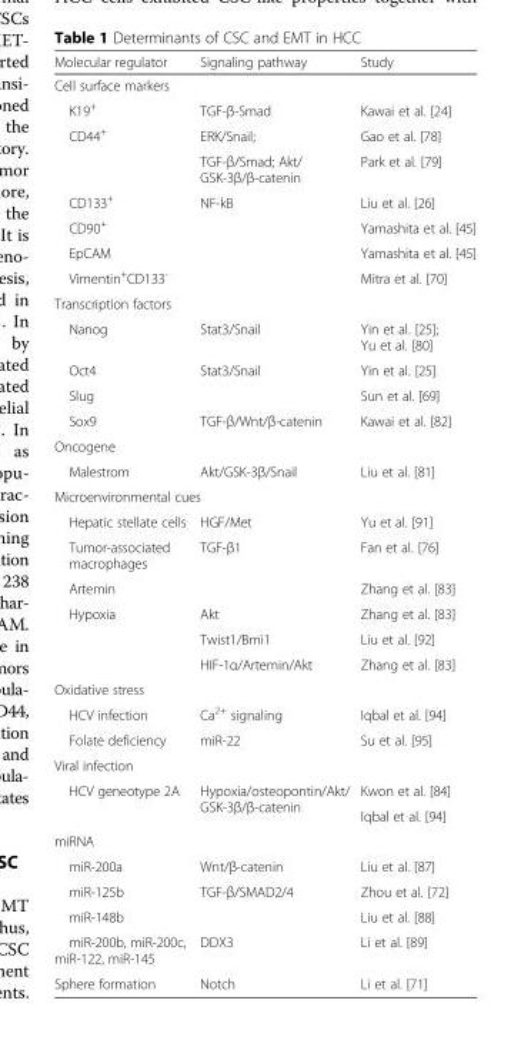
<table><thead><tr><td>Molecular regulator</td><td>Signaling pathway</td><td>Study</td></tr></thead><tbody><tr><td colspan="3">Cell surface markers</td></tr><tr><td>K19<sup>+</sup></td><td>TGF-β-Smad</td><td>Kawai et al. [24]</td></tr><tr><td rowspan="2">CD44<sup>+</sup></td><td>ERK/Snail;</td><td>Gao et al. [78]</td></tr><tr><td>TGF-β/Smad; Akt/ GSK-3β/β-catenin</td><td>Park et al. [79]</td></tr><tr><td>CD133<sup>+</sup></td><td>NF-kB</td><td>Liu et al. [26]</td></tr><tr><td>CD90<sup>+</sup></td><td></td><td>Yamashita et al. [45]</td></tr><tr><td>EpCAM</td><td></td><td>Yamashita et al. [45]</td></tr><tr><td>Vimentin<sup>+</sup>CD133<sup>-</sup></td><td></td><td>Mitra et al. [70]</td></tr><tr><td colspan="3">Transcription factors</td></tr><tr><td>Nanog</td><td>Stat3/Snail</td><td>Yin et al. [25]; Yu et al. [80]</td></tr><tr><td>Oct4</td><td>Stat3/Snail</td><td>Yin et al. [25]</td></tr><tr><td>Slug</td><td></td><td>Sun et al. [69]</td></tr><tr><td>Sox9</td><td>TGF-β/Wnt/β-catenin</td><td>Kawai et al. [82]</td></tr><tr><td colspan="3">Oncogene</td></tr><tr><td>Malestrom</td><td>Akt/GSK-3β/Snail</td><td>Liu et al. [81]</td></tr><tr><td colspan="3">Microenvironmental cues</td></tr><tr><td>Hepatic stellate cells</td><td>HGF/Met</td><td>Yu et al. [91]</td></tr><tr><td>Tumor-associated macrophages</td><td>TGF-β1</td><td>Fan et al. [76]</td></tr><tr><td>Artemin</td><td></td><td>Zhang et al. [83]</td></tr><tr><td rowspan="3">Hypoxia</td><td>Akt</td><td>Zhang et al. [83]</td></tr><tr><td>Twist1/Bmi1</td><td>Liu et al. [92]</td></tr><tr><td>HIF-1α/Artemin/Akt</td><td>Zhang et al. [83]</td></tr><tr><td colspan="3">Oxidative stress</td></tr><tr><td>HCV infection</td><td>Ca<sup>2+</sup> signaling</td><td>Iqbal et al. [94]</td></tr><tr><td>Folate deficiency</td><td>miR-22</td><td>Su et al. [95]</td></tr><tr><td colspan="3">Viral infection</td></tr><tr><td rowspan="2">HCV geneotype 2A</td><td rowspan="2">Hypoxia/osteopontin/Akt/ GSK-3β/β-catenin</td><td>Kwon et al. [84]</td></tr><tr><td>Iqbal et al. [94]</td></tr><tr><td colspan="3">miRNA</td></tr><tr><td>miR-200a</td><td>Wnt/β-catenin</td><td>Liu et al. [87]</td></tr><tr><td>miR-125b</td><td>TGF-β/SMAD2/4</td><td>Zhou et al. [72]</td></tr><tr><td>miR-148b</td><td></td><td>Liu et al. [88]</td></tr><tr><td>miR-200b, miR-200c, miR-122, miR-145</td><td>DDX3</td><td>Li et al. [89]</td></tr><tr><td>Sphere formation</td><td>Notch</td><td>Li et al. [71]</td></tr></tbody></table>